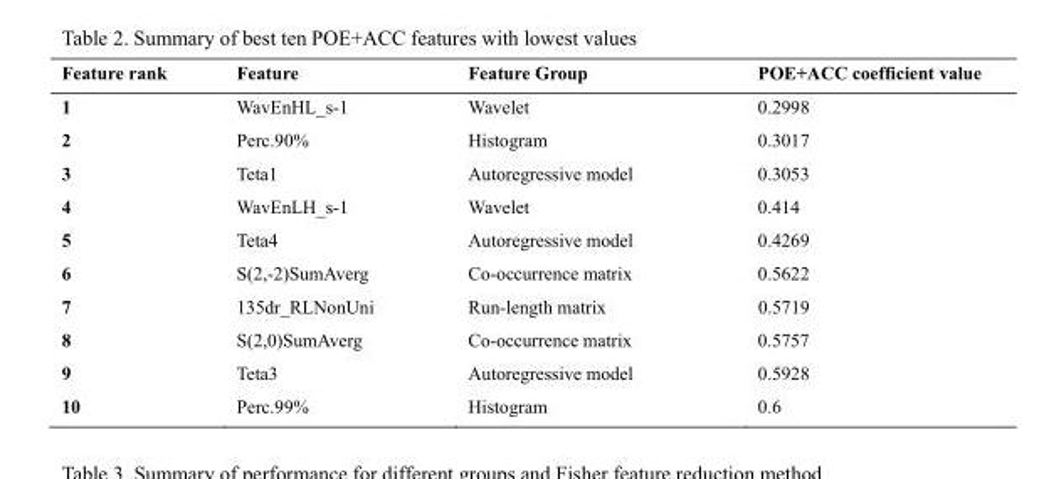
<table><thead><tr><td>Feature rank</td><td>Feature</td><td>Feature Group</td><td>POE+ACC coefficient value</td></tr></thead><tbody><tr><td>1</td><td>WavEnHL_s-1</td><td>Wavelet</td><td>0.2998</td></tr><tr><td>2</td><td>Perc.90%</td><td>Histogram</td><td>0.3017</td></tr><tr><td>3</td><td>Teta1</td><td>Autoregressive model</td><td>0.3053</td></tr><tr><td>4</td><td>WavEnLH_s-1</td><td>Wavelet</td><td>0.414</td></tr><tr><td>5</td><td>Teta4</td><td>Autoregressive model</td><td>0.4269</td></tr><tr><td>6</td><td>S(2,-2)SumAverg</td><td>Co-occurrence matrix</td><td>0.5622</td></tr><tr><td>7</td><td>135dr_RLNonUni</td><td>Run-length matrix</td><td>0.5719</td></tr><tr><td>8</td><td>S(2,0)SumAverg</td><td>Co-occurrence matrix</td><td>0.5757</td></tr><tr><td>9</td><td>Teta3</td><td>Autoregressive model</td><td>0.5928</td></tr><tr><td>10</td><td>Perc.99%</td><td>Histogram</td><td>0.6</td></tr></tbody></table>